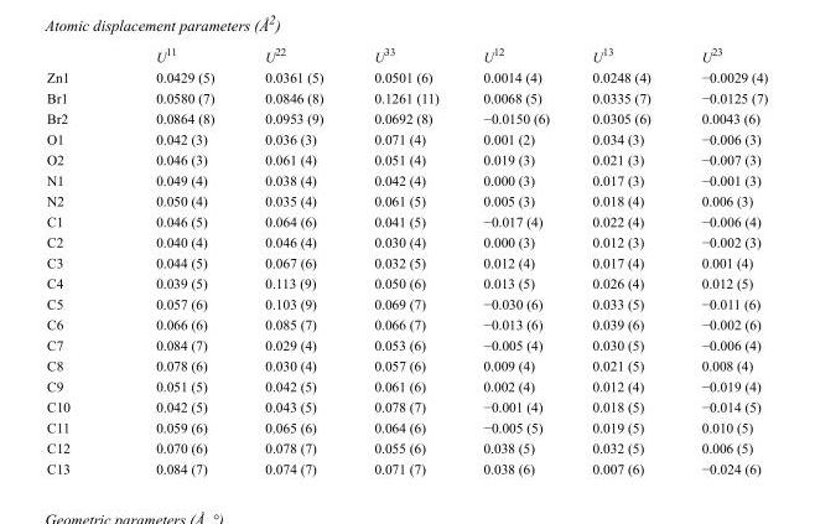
<table><thead><tr><td></td><td>U<sup>11</sup></td><td>U<sup>22</sup></td><td>U<sup>33</sup></td><td>U<sup>12</sup></td><td>U<sup>13</sup></td><td>U<sup>23</sup></td></tr></thead><tbody><tr><td>Zn1</td><td>0.0429 (5)</td><td>0.0361 (5)</td><td>0.0501 (6)</td><td>0.0014 (4)</td><td>0.0248 (4)</td><td>−0.0029 (4)</td></tr><tr><td>Br1</td><td>0.0580 (7)</td><td>0.0846 (8)</td><td>0.1261 (11)</td><td>0.0068 (5)</td><td>0.0335 (7)</td><td>−0.0125 (7)</td></tr><tr><td>Br2</td><td>0.0864 (8)</td><td>0.0953 (9)</td><td>0.0692 (8)</td><td>−0.0150 (6)</td><td>0.0305 (6)</td><td>0.0043 (6)</td></tr><tr><td>O1</td><td>0.042 (3)</td><td>0.036 (3)</td><td>0.071 (4)</td><td>0.001 (2)</td><td>0.034 (3)</td><td>−0.006 (3)</td></tr><tr><td>O2</td><td>0.046 (3)</td><td>0.061 (4)</td><td>0.051 (4)</td><td>0.019 (3)</td><td>0.021 (3)</td><td>−0.007 (3)</td></tr><tr><td>N1</td><td>0.049 (4)</td><td>0.038 (4)</td><td>0.042 (4)</td><td>0.000 (3)</td><td>0.017 (3)</td><td>−0.001 (3)</td></tr><tr><td>N2</td><td>0.050 (4)</td><td>0.035 (4)</td><td>0.061 (5)</td><td>0.005 (3)</td><td>0.018 (4)</td><td>0.006 (3)</td></tr><tr><td>C1</td><td>0.046 (5)</td><td>0.064 (6)</td><td>0.041 (5)</td><td>−0.017 (4)</td><td>0.022 (4)</td><td>−0.006 (4)</td></tr><tr><td>C2</td><td>0.040 (4)</td><td>0.046 (4)</td><td>0.030 (4)</td><td>0.000 (3)</td><td>0.012 (3)</td><td>−0.002 (3)</td></tr><tr><td>C3</td><td>0.044 (5)</td><td>0.067 (6)</td><td>0.032 (5)</td><td>0.012 (4)</td><td>0.017 (4)</td><td>0.001 (4)</td></tr><tr><td>C4</td><td>0.039 (5)</td><td>0.113 (9)</td><td>0.050 (6)</td><td>0.013 (5)</td><td>0.026 (4)</td><td>0.012 (5)</td></tr><tr><td>C5</td><td>0.057 (6)</td><td>0.103 (9)</td><td>0.069 (7)</td><td>−0.030 (6)</td><td>0.033 (5)</td><td>−0.011 (6)</td></tr><tr><td>C6</td><td>0.066 (6)</td><td>0.085 (7)</td><td>0.066 (7)</td><td>−0.013 (6)</td><td>0.039 (6)</td><td>−0.002 (6)</td></tr><tr><td>C7</td><td>0.084 (7)</td><td>0.029 (4)</td><td>0.053 (6)</td><td>−0.005 (4)</td><td>0.030 (5)</td><td>−0.006 (4)</td></tr><tr><td>C8</td><td>0.078 (6)</td><td>0.030 (4)</td><td>0.057 (6)</td><td>0.009 (4)</td><td>0.021 (5)</td><td>0.008 (4)</td></tr><tr><td>C9</td><td>0.051 (5)</td><td>0.042 (5)</td><td>0.061 (6)</td><td>0.002 (4)</td><td>0.012 (4)</td><td>−0.019 (4)</td></tr><tr><td>C10</td><td>0.042 (5)</td><td>0.043 (5)</td><td>0.078 (7)</td><td>−0.001 (4)</td><td>0.018 (5)</td><td>−0.014 (5)</td></tr><tr><td>C11</td><td>0.059 (6)</td><td>0.065 (6)</td><td>0.064 (6)</td><td>−0.005 (5)</td><td>0.019 (5)</td><td>0.010 (5)</td></tr><tr><td>C12</td><td>0.070 (6)</td><td>0.078 (7)</td><td>0.055 (6)</td><td>0.038 (5)</td><td>0.032 (5)</td><td>0.006 (5)</td></tr><tr><td>C13</td><td>0.084 (7)</td><td>0.074 (7)</td><td>0.071 (7)</td><td>0.038 (6)</td><td>0.007 (6)</td><td>−0.024 (6)</td></tr></tbody></table>